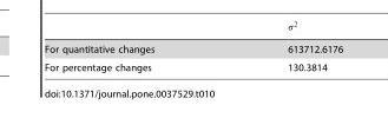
<table><tbody><tr><td>For quantitative changes</td><td>613712.6176</td></tr><tr><td>For percentage changes</td><td>130.3814</td></tr></tbody></table>